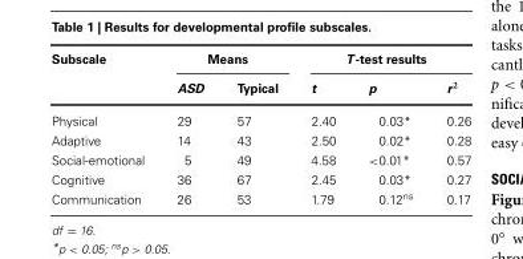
<table><thead><tr><td rowspan="2">Subscale</td><td colspan="2">Means</td><td colspan="3">T-test results</td></tr><tr><td>ASD</td><td>Typical</td><td>t</td><td>p</td><td>r<sup>2</sup></td></tr></thead><tbody><tr><td>Physical</td><td>29</td><td>57</td><td>2.40</td><td>0.03*</td><td>0.26</td></tr><tr><td>Adaptive</td><td>14</td><td>43</td><td>2.50</td><td>0.02*</td><td>0.28</td></tr><tr><td>Social-emotional</td><td>5</td><td>49</td><td>4.58</td><td>&lt;0.01*</td><td>0.57</td></tr><tr><td>Cognitive</td><td>36</td><td>67</td><td>2.45</td><td>0.03*</td><td>0.27</td></tr><tr><td>Communication</td><td>26</td><td>53</td><td>1.79</td><td>0.12<sup>ns</sup></td><td>0.17</td></tr></tbody></table>